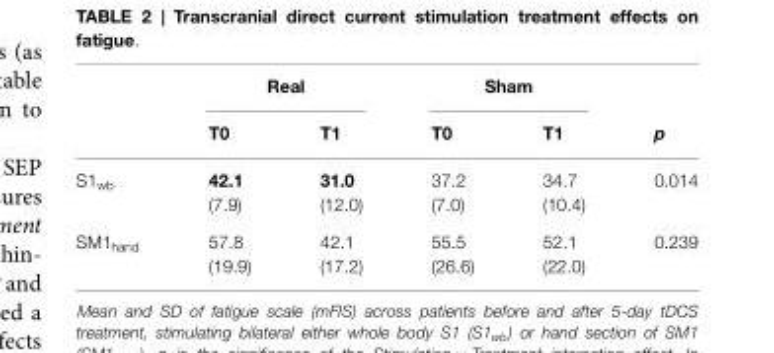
<table><thead><tr><td rowspan="2"></td><td colspan="2">Real</td><td colspan="2">Sham</td><td rowspan="2">p</td></tr><tr><td>T0</td><td>T1</td><td>T0</td><td>T1</td></tr></thead><tbody><tr><td rowspan="2">S1<sub>wb</sub></td><td>42.1</td><td>31.0</td><td>37.2</td><td>34.7</td><td>0.014</td></tr><tr><td>(7.9)</td><td>(12.0)</td><td>(7.0)</td><td>(10.4)</td><td></td></tr><tr><td rowspan="2">SM1<sub>hand</sub></td><td>57.8</td><td>42.1</td><td>55.5</td><td>52.1</td><td>0.239</td></tr><tr><td>(19.9)</td><td>(17.2)</td><td>(26.6)</td><td>(22.0)</td><td></td></tr></tbody></table>